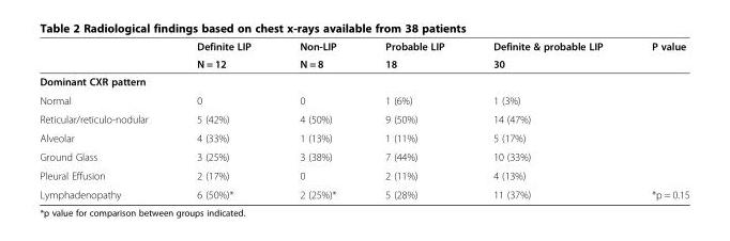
<table><thead><tr><td rowspan="2"></td><td rowspan="2">Definite LIP N = 12</td><td rowspan="2">Non-LIP N = 8</td><td rowspan="2">Probable LIP 18</td><td rowspan="2">Definite &amp; probable LIP 30</td><td rowspan="2">P value</td></tr><tr></tr></thead><tbody><tr><td colspan="6">Dominant CXR pattern</td></tr><tr><td>Normal</td><td>0</td><td>0</td><td>1 (6%)</td><td>1 (3%)</td><td></td></tr><tr><td>Reticular/reticulo-nodular</td><td>5 (42%)</td><td>4 (50%)</td><td>9 (50%)</td><td>14 (47%)</td><td></td></tr><tr><td>Alveolar</td><td>4 (33%)</td><td>1 (13%)</td><td>1 (11%)</td><td>5 (17%)</td><td></td></tr><tr><td>Ground Glass</td><td>3 (25%)</td><td>3 (38%)</td><td>7 (44%)</td><td>10 (33%)</td><td></td></tr><tr><td>Pleural Effusion</td><td>2 (17%)</td><td>0</td><td>2 (11%)</td><td>4 (13%)</td><td></td></tr><tr><td>Lymphadenopathy</td><td>6 (50%)*</td><td>2 (25%)*</td><td>5 (28%)</td><td>11 (37%)</td><td>*p = 0.15</td></tr></tbody></table>